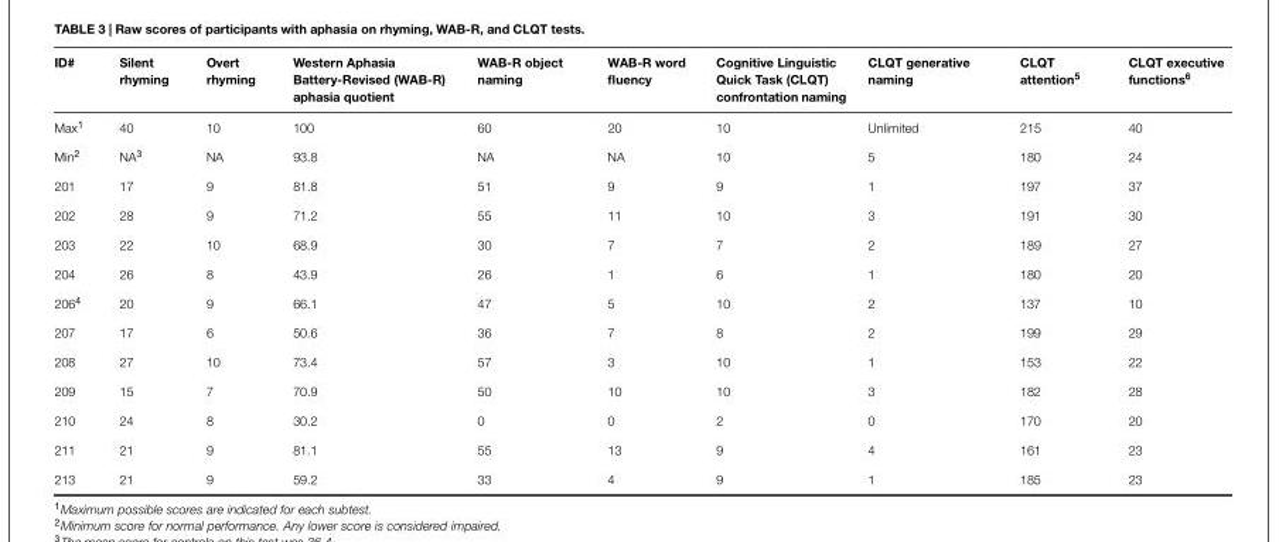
<table><thead><tr><td>ID#</td><td>Silent rhyming</td><td>Overt rhyming</td><td>Western Aphasia Battery-Revised (WAB-R) aphasia quotient</td><td>WAB-R object naming</td><td>WAB-R word fluency</td><td>Cognitive Linguistic Quick Task (CLQT) confrontation naming</td><td>CLQT generative naming</td><td>CLQT attention<sup>5</sup></td><td>CLQT executive functions<sup>6</sup></td></tr></thead><tbody><tr><td>Max<sup>1</sup></td><td>40</td><td>10</td><td>100</td><td>60</td><td>20</td><td>10</td><td>Unlimited</td><td>215</td><td>40</td></tr><tr><td>Min<sup>2</sup></td><td>NA<sup>3</sup></td><td>NA</td><td>93.8</td><td>NA</td><td>NA</td><td>10</td><td>5</td><td>180</td><td>24</td></tr><tr><td>201</td><td>17</td><td>9</td><td>81.8</td><td>51</td><td>9</td><td>9</td><td>1</td><td>197</td><td>37</td></tr><tr><td>202</td><td>28</td><td>9</td><td>71.2</td><td>55</td><td>11</td><td>10</td><td>3</td><td>191</td><td>30</td></tr><tr><td>203</td><td>22</td><td>10</td><td>68.9</td><td>30</td><td>7</td><td>7</td><td>2</td><td>189</td><td>27</td></tr><tr><td>204</td><td>26</td><td>8</td><td>43.9</td><td>26</td><td>1</td><td>6</td><td>1</td><td>180</td><td>20</td></tr><tr><td>206<sup>4</sup></td><td>20</td><td>9</td><td>66.1</td><td>47</td><td>5</td><td>10</td><td>2</td><td>137</td><td>10</td></tr><tr><td>207</td><td>17</td><td>6</td><td>50.6</td><td>36</td><td>7</td><td>8</td><td>2</td><td>199</td><td>29</td></tr><tr><td>208</td><td>27</td><td>10</td><td>73.4</td><td>57</td><td>3</td><td>10</td><td>1</td><td>153</td><td>22</td></tr><tr><td>209</td><td>15</td><td>7</td><td>70.9</td><td>50</td><td>10</td><td>10</td><td>3</td><td>182</td><td>28</td></tr><tr><td>210</td><td>24</td><td>8</td><td>30.2</td><td>0</td><td>0</td><td>2</td><td>0</td><td>170</td><td>20</td></tr><tr><td>211</td><td>21</td><td>9</td><td>81.1</td><td>55</td><td>13</td><td>9</td><td>4</td><td>161</td><td>23</td></tr><tr><td>213</td><td>21</td><td>9</td><td>59.2</td><td>33</td><td>4</td><td>9</td><td>1</td><td>185</td><td>23</td></tr></tbody></table>